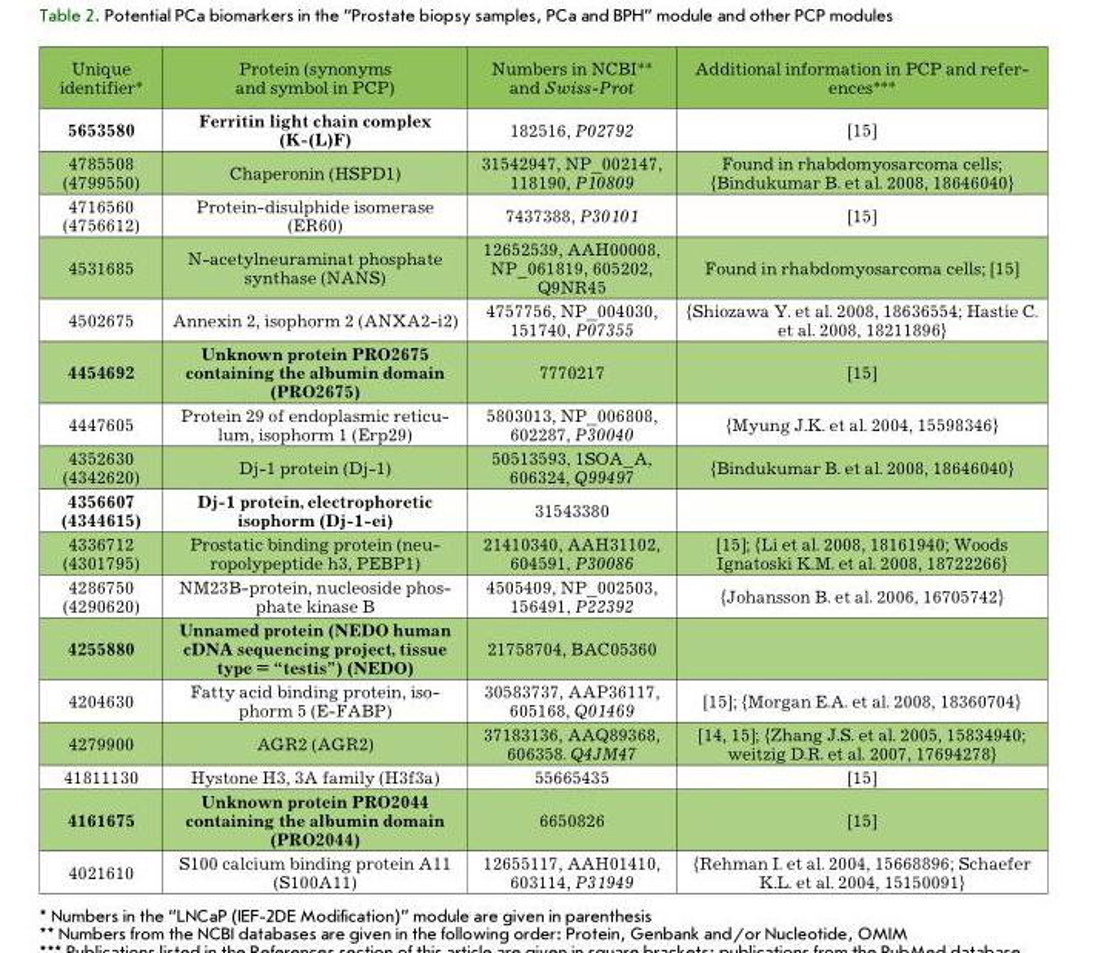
<table><thead><tr><td>Unique identifier*</td><td>Protein (synonyms and symbol in PCP)</td><td>Numbers in NCBI** and Swiss-Prot</td><td>Additional information in PCP and refer- ences***</td></tr></thead><tbody><tr><td>5653580</td><td>Ferritin light chain complex (K-(L)F)</td><td>182516, P02792</td><td>[15]</td></tr><tr><td>4785508 (4799550)</td><td>Chaperonin (HSPD1)</td><td>31542947, NP_002147, 118190, P10809</td><td>Found in rhabdomyosarcoma cells; {Bindukumar B. et al. 2008, 18646040}</td></tr><tr><td>4716560 (4756612)</td><td>Protein-disulphide isomerase (ER60)</td><td>7437388, P30101</td><td>[15]</td></tr><tr><td>4531685</td><td>N-acetylneuraminat phosphate synthase (NANS)</td><td>12652539, AAH00008, NP_061819, 605202, Q9NR45</td><td>Found in rhabdomyosarcoma cells; [15]</td></tr><tr><td>4502675</td><td>Annexin 2, isophorm 2 (ANXA2-i2)</td><td>4757756, NP_004030, 151740, P07355</td><td>{Shiozawa Y. et al. 2008, 18636554; Hastie C. et al. 2008, 18211896}</td></tr><tr><td>4454692</td><td>Unknown protein PRO2675 containing the albumin domain (PRO2675)</td><td>7770217</td><td>[15]</td></tr><tr><td>4447605</td><td>Protein 29 of endoplasmic reticu- lum, isophorm 1 (Erp29)</td><td>5803013, NP_006808, 602287, P30040</td><td>{Myung J.K. et al. 2004, 15598346}</td></tr><tr><td>4352630 (4342620)</td><td>Dj-1 protein (Dj-1)</td><td>50513593, 1SOA_A, 606324, Q99497</td><td>{Bindukumar B. et al. 2008, 18646040}</td></tr><tr><td>4356607 (4344615)</td><td>Dj-1 protein, electrophoretic isophorm (Dj-1-ei)</td><td>31543380</td><td></td></tr><tr><td>4336712 (4301795)</td><td>Prostatic binding protein (neu- ropolypeptide h3, PEBP1)</td><td>21410340, AAH31102, 604591, P30086</td><td>[15]; {Li et al. 2008, 18161940; Woods Ignatoski K.M. et al. 2008, 18722266}</td></tr><tr><td>4286750 (4290620)</td><td>NM23B-protein, nucleoside phos- phate kinase B</td><td>4505409, NP_002503, 156491, P22392</td><td>{Johansson B. et al. 2006, 16705742}</td></tr><tr><td>4255880</td><td>Unnamed protein (NEDO human cDNA sequencing project, tissue type = “testis”) (NEDO)</td><td>21758704, BAC05360</td><td></td></tr><tr><td>4204630</td><td>Fatty acid binding protein, iso- phorm 5 (E-FABP)</td><td>30583737, AAP36117, 605168, Q01469</td><td>[15]; {Morgan E.A. et al. 2008, 18360704}</td></tr><tr><td>4279900</td><td>AGR2 (AGR2)</td><td>37183136, AAQ89368, 606358. Q4JM47</td><td>[14, 15]; {Zhang J.S. et al. 2005, 15834940; weitzig D.R. et al. 2007, 17694278}</td></tr><tr><td>41811130</td><td>Hystone H3, 3A family (H3f3a)</td><td>55665435</td><td>[15]</td></tr><tr><td>4161675</td><td>Unknown protein PRO2044 containing the albumin domain (PRO2044)</td><td>6650826</td><td>[15]</td></tr><tr><td>4021610</td><td>S100 calcium binding protein A11 (S100A11)</td><td>12655117, AAH01410, 603114, P31949</td><td>{Rehman I. et al. 2004, 15668896; Schaefer K.L. et al. 2004, 15150091}</td></tr></tbody></table>